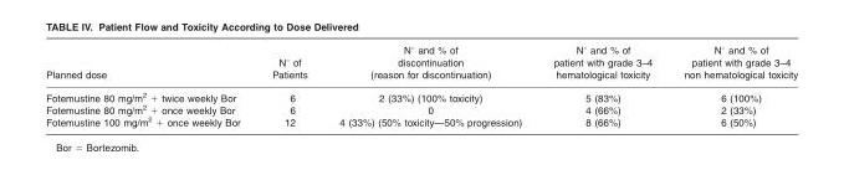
<table><thead><tr><td>Planned dose</td><td>N° of Patients</td><td>N° and % of discontinuation (reason for discontinuation)</td><td>N° and % of patient with grade 3–4 hematological toxicity</td><td>N° and % of patient with grade 3–4 non hematological toxicity</td></tr></thead><tbody><tr><td>Fotemustine 80 mg/m<sup>2</sup> + twice weekly Bor</td><td>6</td><td>2 (33%) (100% toxicity)</td><td>5 (83%)</td><td>6 (100%)</td></tr><tr><td>Fotemustine 80 mg/m<sup>2</sup> + once weekly Bor</td><td>6</td><td>0</td><td>4 (66%)</td><td>2 (33%)</td></tr><tr><td>Fotemustine 100 mg/m<sup>2</sup> + once weekly Bor</td><td>12</td><td>4 (33%) (50% toxicity—50% progression)</td><td>8 (66%)</td><td>6 (50%)</td></tr></tbody></table>